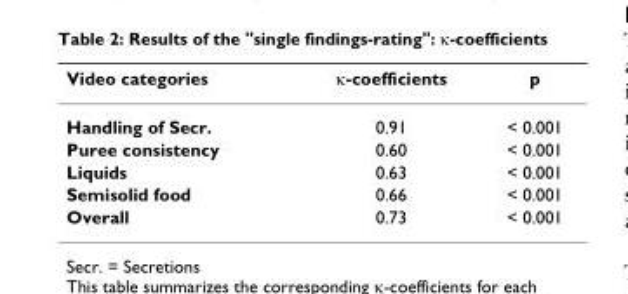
<table><thead><tr><td>Video categories</td><td>κ-coefficients</td><td>p</td></tr></thead><tbody><tr><td>Handling of Secr.</td><td>0.91</td><td>&lt; 0.001</td></tr><tr><td>Puree consistency</td><td>0.60</td><td>&lt; 0.001</td></tr><tr><td>Liquids</td><td>0.63</td><td>&lt; 0.001</td></tr><tr><td>Semisolid food</td><td>0.66</td><td>&lt; 0.001</td></tr><tr><td>Overall</td><td>0.73</td><td>&lt; 0.001</td></tr></tbody></table>